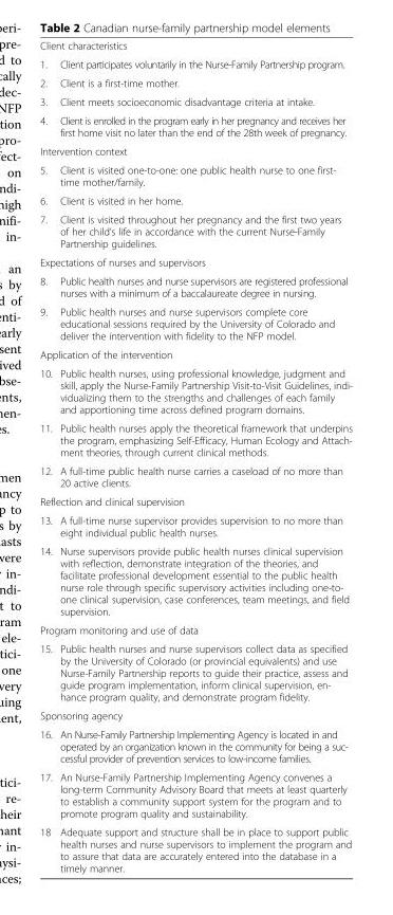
<table><tbody><tr><td colspan="2">Client characteristics</td></tr><tr><td>1.</td><td>Client participates voluntarily in the Nurse-Family Partnership program.</td></tr><tr><td>2.</td><td>Client is a first-time mother.</td></tr><tr><td>3.</td><td>Client meets socioeconomic disadvantage criteria at intake.</td></tr><tr><td>4.</td><td>Client is enrolled in the program early in her pregnancy and receives her first home visit no later than the end of the 28th week of pregnancy.</td></tr><tr><td colspan="2">Intervention context</td></tr><tr><td>5.</td><td>Client is visited one-to-one: one public health nurse to one first- time mother/family.</td></tr><tr><td>6.</td><td>Client is visited in her home.</td></tr><tr><td>7.</td><td>Client is visited throughout her pregnancy and the first two years of her child’s life in accordance with the current Nurse-Family Partnership guidelines.</td></tr><tr><td colspan="2">Expectations of nurses and supervisors</td></tr><tr><td>8.</td><td>Public health nurses and nurse supervisors are registered professional nurses with a minimum of a baccalaureate degree in nursing.</td></tr><tr><td>9.</td><td>Public health nurses and nurse supervisors complete core educational sessions required by the University of Colorado and deliver the intervention with fidelity to the NFP model.</td></tr><tr><td colspan="2">Application of the intervention</td></tr><tr><td>10.</td><td>Public health nurses, using professional knowledge, judgment and skill, apply the Nurse-Family Partnership Visit-to-Visit Guidelines, indi- vidualizing them to the strengths and challenges of each family and apportioning time across defined program domains.</td></tr><tr><td>11.</td><td>Public health nurses apply the theoretical framework that underpins the program, emphasizing Self-Efficacy, Human Ecology and Attach- ment theories, through current clinical methods.</td></tr><tr><td>12.</td><td>A full-time public health nurse carries a caseload of no more than 20 active clients.</td></tr><tr><td colspan="2">Reflection and clinical supervision</td></tr><tr><td>13.</td><td>A full-time nurse supervisor provides supervision to no more than eight individual public health nurses.</td></tr><tr><td>14.</td><td>Nurse supervisors provide public health nurses clinical supervision with reflection, demonstrate integration of the theories, and facilitate professional development essential to the public health nurse role through specific supervisory activities including one-to- one clinical supervision, case conferences, team meetings, and field supervision.</td></tr><tr><td colspan="2">Program monitoring and use of data</td></tr><tr><td>15.</td><td>Public health nurses and nurse supervisors collect data as specified by the University of Colorado (or provincial equivalents) and use Nurse-Family Partnership reports to guide their practice, assess and guide program implementation, inform clinical supervision, en- hance program quality, and demonstrate program fidelity.</td></tr><tr><td colspan="2">Sponsoring agency</td></tr><tr><td>16.</td><td>An Nurse-Family Partnership Implementing Agency is located in and operated by an organization known in the community for being a suc- cessful provider of prevention services to low-income families.</td></tr><tr><td>17.</td><td>An Nurse-Family Partnership Implementing Agency convenes a long-term Community Advisory Board that meets at least quarterly to establish a community support system for the program and to promote program quality and sustainability.</td></tr><tr><td>18</td><td>Adequate support and structure shall be in place to support public health nurses and nurse supervisors to implement the program and to assure that data are accurately entered into the database in a timely manner.</td></tr></tbody></table>